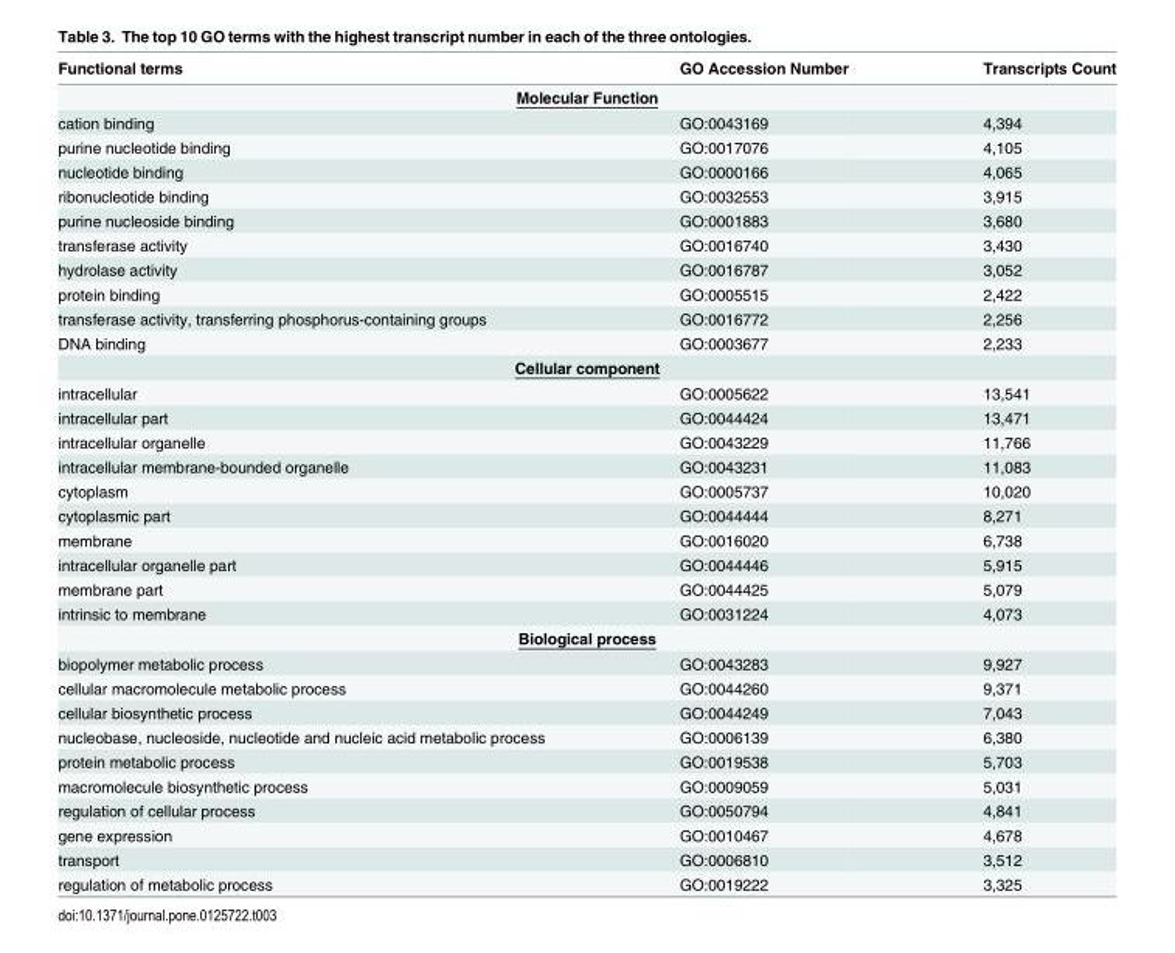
<table><thead><tr><td>Functional terms</td><td>GO Accession Number</td><td>Transcripts Count</td></tr></thead><tbody><tr><td colspan="3">Molecular Function</td></tr><tr><td>cation binding</td><td>GO:0043169</td><td>4,394</td></tr><tr><td>purine nucleotide binding</td><td>GO:0017076</td><td>4,105</td></tr><tr><td>nucleotide binding</td><td>GO:0000166</td><td>4,065</td></tr><tr><td>ribonucleotide binding</td><td>GO:0032553</td><td>3,915</td></tr><tr><td>purine nucleoside binding</td><td>GO:0001883</td><td>3,680</td></tr><tr><td>transferase activity</td><td>GO:0016740</td><td>3,430</td></tr><tr><td>hydrolase activity</td><td>GO:0016787</td><td>3,052</td></tr><tr><td>protein binding</td><td>GO:0005515</td><td>2,422</td></tr><tr><td>transferase activity, transferring phosphorus-containing groups</td><td>GO:0016772</td><td>2,256</td></tr><tr><td>DNA binding</td><td>GO:0003677</td><td>2,233</td></tr><tr><td colspan="3">Cellular component</td></tr><tr><td>intracellular</td><td>GO:0005622</td><td>13,541</td></tr><tr><td>intracellular part</td><td>GO:0044424</td><td>13,471</td></tr><tr><td>intracellular organelle</td><td>GO:0043229</td><td>11,766</td></tr><tr><td>intracellular membrane-bounded organelle</td><td>GO:0043231</td><td>11,083</td></tr><tr><td>cytoplasm</td><td>GO:0005737</td><td>10,020</td></tr><tr><td>cytoplasmic part</td><td>GO:0044444</td><td>8,271</td></tr><tr><td>membrane</td><td>GO:0016020</td><td>6,738</td></tr><tr><td>intracellular organelle part</td><td>GO:0044446</td><td>5,915</td></tr><tr><td>membrane part</td><td>GO:0044425</td><td>5,079</td></tr><tr><td>intrinsic to membrane</td><td>GO:0031224</td><td>4,073</td></tr><tr><td colspan="3">Biological process</td></tr><tr><td>biopolymer metabolic process</td><td>GO:0043283</td><td>9,927</td></tr><tr><td>cellular macromolecule metabolic process</td><td>GO:0044260</td><td>9,371</td></tr><tr><td>cellular biosynthetic process</td><td>GO:0044249</td><td>7,043</td></tr><tr><td>nucleobase, nucleoside, nucleotide and nucleic acid metabolic process</td><td>GO:0006139</td><td>6,380</td></tr><tr><td>protein metabolic process</td><td>GO:0019538</td><td>5,703</td></tr><tr><td>macromolecule biosynthetic process</td><td>GO:0009059</td><td>5,031</td></tr><tr><td>regulation of cellular process</td><td>GO:0050794</td><td>4,841</td></tr><tr><td>gene expression</td><td>GO:0010467</td><td>4,678</td></tr><tr><td>transport</td><td>GO:0006810</td><td>3,512</td></tr><tr><td>regulation of metabolic process</td><td>GO:0019222</td><td>3,325</td></tr></tbody></table>